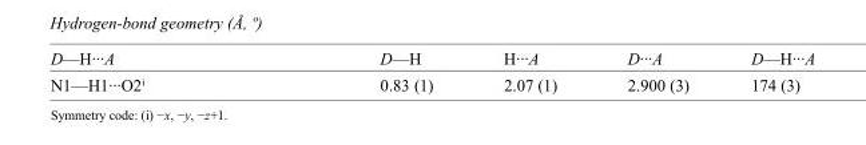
<table><tbody><tr><td>D—H···A</td><td>D—H</td><td>H···A</td><td>D···A</td><td>D—H···A</td></tr><tr><td>N1—H1···O2<sup>i</sup></td><td>0.83 (1)</td><td>2.07 (1)</td><td>2.900 (3)</td><td>174 (3)</td></tr></tbody></table>